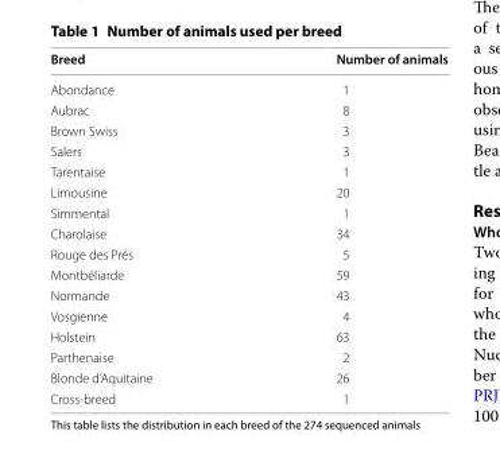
<table><thead><tr><td>Breed</td><td>Number of animals</td></tr></thead><tbody><tr><td>Abondance</td><td>1</td></tr><tr><td>Aubrac</td><td>8</td></tr><tr><td>Brown Swiss</td><td>3</td></tr><tr><td>Salers</td><td>3</td></tr><tr><td>Tarentaise</td><td>1</td></tr><tr><td>Limousine</td><td>20</td></tr><tr><td>Simmental</td><td>1</td></tr><tr><td>Charolaise</td><td>34</td></tr><tr><td>Rouge des Prés</td><td>5</td></tr><tr><td>Montbéliarde</td><td>59</td></tr><tr><td>Normande</td><td>43</td></tr><tr><td>Vosgienne</td><td>4</td></tr><tr><td>Holstein</td><td>63</td></tr><tr><td>Parthenaise</td><td>2</td></tr><tr><td>Blonde d’Aquitaine</td><td>26</td></tr><tr><td>Cross-breed</td><td>1</td></tr></tbody></table>